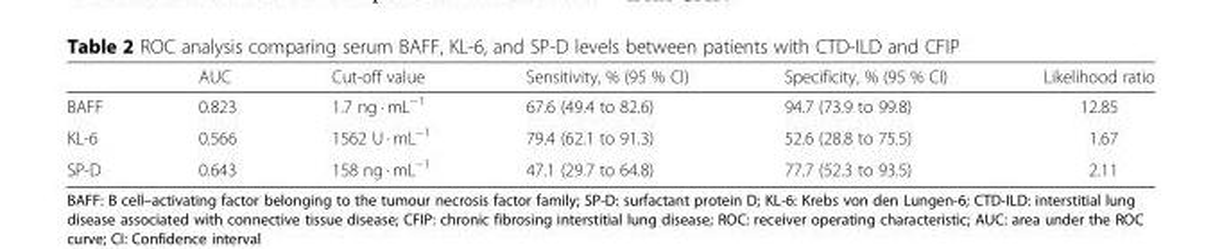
<table><thead><tr><td></td><td>AUC</td><td>Cut-off value</td><td>Sensitivity, % (95 % CI)</td><td>Specificity, % (95 % CI)</td><td>Likelihood ratio</td></tr></thead><tbody><tr><td>BAFF</td><td>0.823</td><td>1.7 ng · mL<sup>−1</sup></td><td>67.6 (49.4 to 82.6)</td><td>94.7 (73.9 to 99.8)</td><td>12.85</td></tr><tr><td>KL-6</td><td>0.566</td><td>1562 U · mL<sup>−1</sup></td><td>79.4 (62.1 to 91.3)</td><td>52.6 (28.8 to 75.5)</td><td>1.67</td></tr><tr><td>SP-D</td><td>0.643</td><td>158 ng · mL<sup>−1</sup></td><td>47.1 (29.7 to 64.8)</td><td>77.7 (52.3 to 93.5)</td><td>2.11</td></tr></tbody></table>